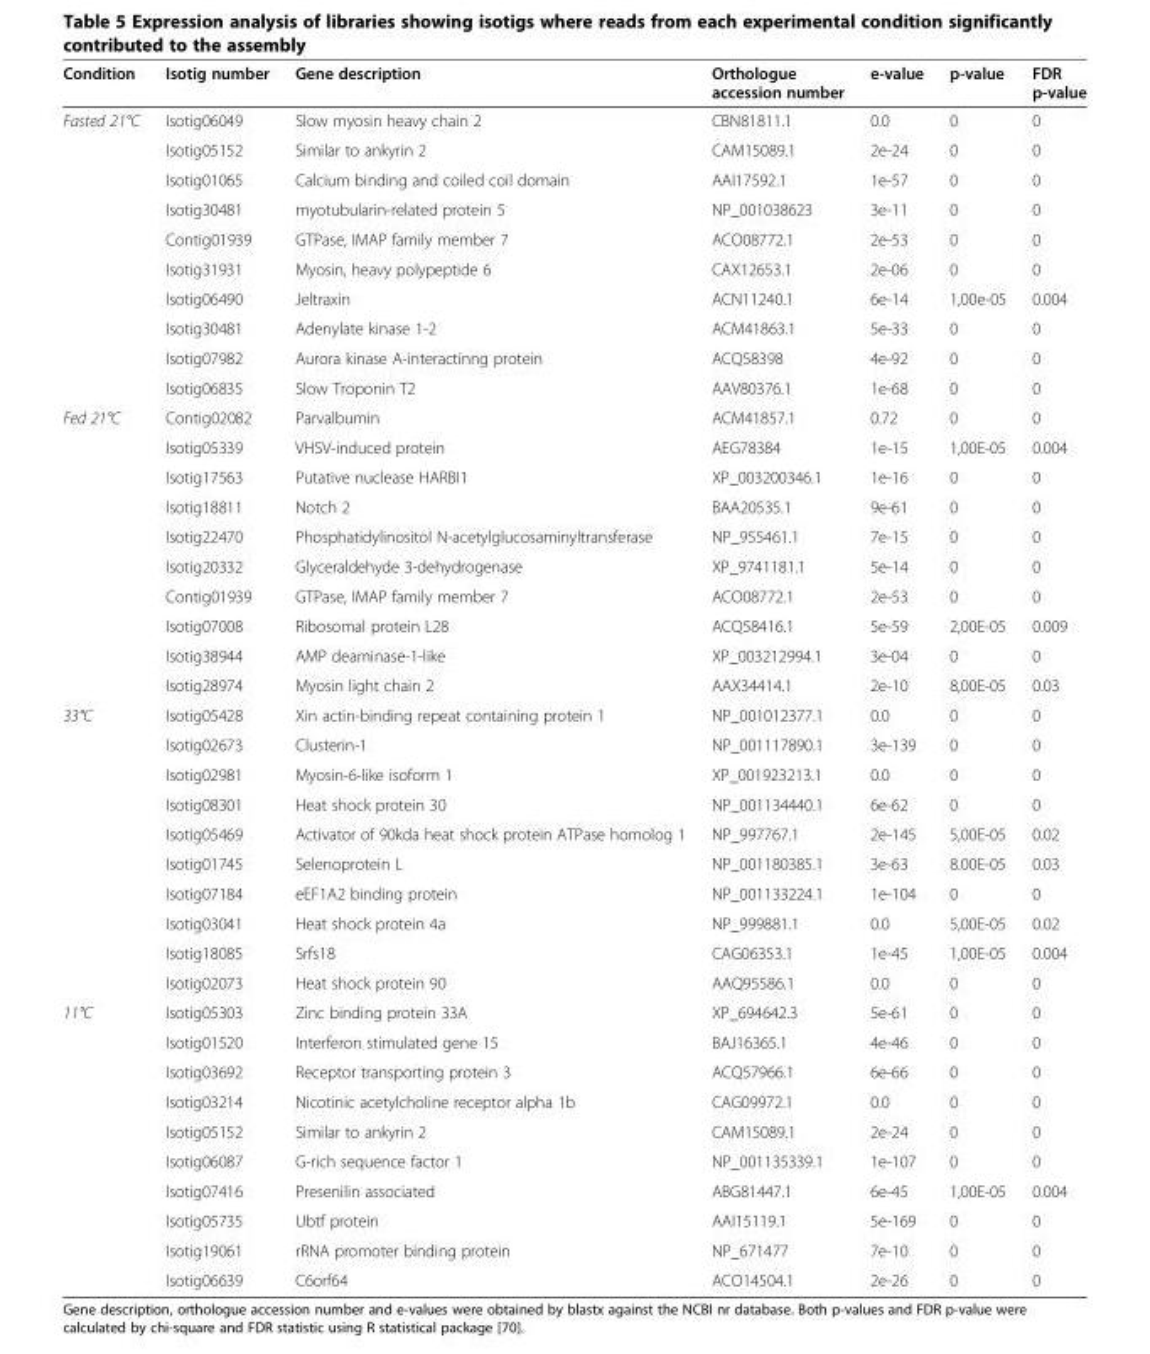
<table><thead><tr><td>Condition</td><td>Isotig number</td><td>Gene description</td><td>Orthologue accession number</td><td>e-value</td><td>p-value</td><td>FDR p-value</td></tr></thead><tbody><tr><td rowspan="10">Fasted 21°C</td><td>Isotig06049</td><td>Slow myosin heavy chain 2</td><td>CBN81811.1</td><td>0.0</td><td>0</td><td>0</td></tr><tr><td>Isotig05152</td><td>Similar to ankyrin 2</td><td>CAM15089.1</td><td>2e-24</td><td>0</td><td>0</td></tr><tr><td>Isotig01065</td><td>Calcium binding and coiled coil domain</td><td>AAI17592.1</td><td>1e-57</td><td>0</td><td>0</td></tr><tr><td>Isotig30481</td><td>myotubularin-related protein 5</td><td>NP_001038623</td><td>3e-11</td><td>0</td><td>0</td></tr><tr><td>Contig01939</td><td>GTPase, IMAP family member 7</td><td>ACO08772.1</td><td>2e-53</td><td>0</td><td>0</td></tr><tr><td>Isotig31931</td><td>Myosin, heavy polypeptide 6</td><td>CAX12653.1</td><td>2e-06</td><td>0</td><td>0</td></tr><tr><td>Isotig06490</td><td>Jeltraxin</td><td>ACN11240.1</td><td>6e-14</td><td>1,00e-05</td><td>0.004</td></tr><tr><td>Isotig30481</td><td>Adenylate kinase 1-2</td><td>ACM41863.1</td><td>5e-33</td><td>0</td><td>0</td></tr><tr><td>Isotig07982</td><td>Aurora kinase A-interactinng protein</td><td>ACQ58398</td><td>4e-92</td><td>0</td><td>0</td></tr><tr><td>Isotig06835</td><td>Slow Troponin T2</td><td>AAV80376.1</td><td>1e-68</td><td>0</td><td>0</td></tr><tr><td rowspan="10">Fed 21°C</td><td>Contig02082</td><td>Parvalbumin</td><td>ACM41857.1</td><td>0.72</td><td>0</td><td>0</td></tr><tr><td>Isotig05339</td><td>VHSV-induced protein</td><td>AEG78384</td><td>1e-15</td><td>1,00E-05</td><td>0.004</td></tr><tr><td>Isotig17563</td><td>Putative nuclease HARBI1</td><td>XP_003200346.1</td><td>1e-16</td><td>0</td><td>0</td></tr><tr><td>Isotig18811</td><td>Notch 2</td><td>BAA20535.1</td><td>9e-61</td><td>0</td><td>0</td></tr><tr><td>Isotig22470</td><td>Phosphatidylinositol N-acetylglucosaminyltransferase</td><td>NP_955461.1</td><td>7e-15</td><td>0</td><td>0</td></tr><tr><td>Isotig20332</td><td>Glyceraldehyde 3-dehydrogenase</td><td>XP_9741181.1</td><td>5e-14</td><td>0</td><td>0</td></tr><tr><td>Contig01939</td><td>GTPase, IMAP family member 7</td><td>ACO08772.1</td><td>2e-53</td><td>0</td><td>0</td></tr><tr><td>Isotig07008</td><td>Ribosomal protein L28</td><td>ACQ58416.1</td><td>5e-59</td><td>2,00E-05</td><td>0.009</td></tr><tr><td>Isotig38944</td><td>AMP deaminase-1-like</td><td>XP_003212994.1</td><td>3e-04</td><td>0</td><td>0</td></tr><tr><td>Isotig28974</td><td>Myosin light chain 2</td><td>AAX34414.1</td><td>2e-10</td><td>8,00E-05</td><td>0.03</td></tr><tr><td rowspan="10">33°C</td><td>Isotig05428</td><td>Xin actin-binding repeat containing protein 1</td><td>NP_001012377.1</td><td>0.0</td><td>0</td><td>0</td></tr><tr><td>Isotig02673</td><td>Clusterin-1</td><td>NP_001117890.1</td><td>3e-139</td><td>0</td><td>0</td></tr><tr><td>Isotig02981</td><td>Myosin-6-like isoform 1</td><td>XP_001923213.1</td><td>0.0</td><td>0</td><td>0</td></tr><tr><td>Isotig08301</td><td>Heat shock protein 30</td><td>NP_001134440.1</td><td>6e-62</td><td>0</td><td>0</td></tr><tr><td>Isotig05469</td><td>Activator of 90kda heat shock protein ATPase homolog 1</td><td>NP_997767.1</td><td>2e-145</td><td>5,00E-05</td><td>0.02</td></tr><tr><td>Isotig01745</td><td>Selenoprotein L</td><td>NP_001180385.1</td><td>3e-63</td><td>8.00E-05</td><td>0.03</td></tr><tr><td>Isotig07184</td><td>eEF1A2 binding protein</td><td>NP_001133224.1</td><td>1e-104</td><td>0</td><td>0</td></tr><tr><td>Isotig03041</td><td>Heat shock protein 4a</td><td>NP_999881.1</td><td>0.0</td><td>5,00E-05</td><td>0.02</td></tr><tr><td>Isotig18085</td><td>Srfs18</td><td>CAG06353.1</td><td>1e-45</td><td>1,00E-05</td><td>0.004</td></tr><tr><td>Isotig02073</td><td>Heat shock protein 90</td><td>AAQ95586.1</td><td>0.0</td><td>0</td><td>0</td></tr><tr><td rowspan="10">11°C</td><td>Isotig05303</td><td>Zinc binding protein 33A</td><td>XP_694642.3</td><td>5e-61</td><td>0</td><td>0</td></tr><tr><td>Isotig01520</td><td>Interferon stimulated gene 15</td><td>BAJ16365.1</td><td>4e-46</td><td>0</td><td>0</td></tr><tr><td>Isotig03692</td><td>Receptor transporting protein 3</td><td>ACQ57966.1</td><td>6e-66</td><td>0</td><td>0</td></tr><tr><td>Isotig03214</td><td>Nicotinic acetylcholine receptor alpha 1b</td><td>CAG09972.1</td><td>0.0</td><td>0</td><td>0</td></tr><tr><td>Isotig05152</td><td>Similar to ankyrin 2</td><td>CAM15089.1</td><td>2e-24</td><td>0</td><td>0</td></tr><tr><td>Isotig06087</td><td>G-rich sequence factor 1</td><td>NP_001135339.1</td><td>1e-107</td><td>0</td><td>0</td></tr><tr><td>Isotig07416</td><td>Presenilin associated</td><td>ABG81447.1</td><td>6e-45</td><td>1,00E-05</td><td>0.004</td></tr><tr><td>Isotig05735</td><td>Ubtf protein</td><td>AAI15119.1</td><td>5e-169</td><td>0</td><td>0</td></tr><tr><td>Isotig19061</td><td>rRNA promoter binding protein</td><td>NP_671477</td><td>7e-10</td><td>0</td><td>0</td></tr><tr><td>Isotig06639</td><td>C6orf64</td><td>ACO14504.1</td><td>2e-26</td><td>0</td><td>0</td></tr></tbody></table>